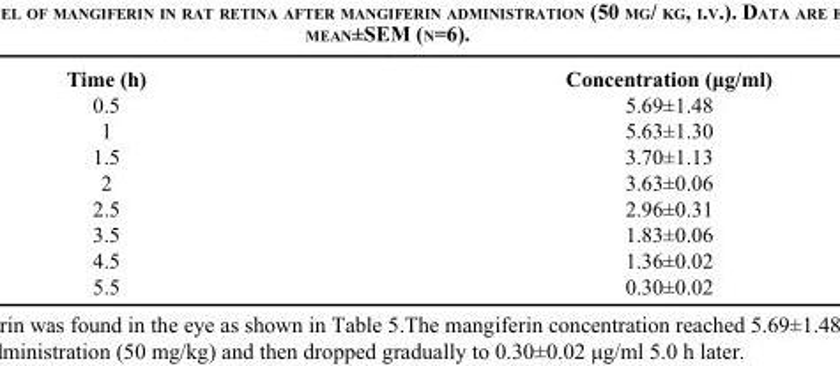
<table><thead><tr><td>Time (h)</td><td>Concentration (μg/ml)</td></tr></thead><tbody><tr><td>0.5</td><td>5.69±1.48</td></tr><tr><td>1</td><td>5.63±1.30</td></tr><tr><td>1.5</td><td>3.70±1.13</td></tr><tr><td>2</td><td>3.63±0.06</td></tr><tr><td>2.5</td><td>2.96±0.31</td></tr><tr><td>3.5</td><td>1.83±0.06</td></tr><tr><td>4.5</td><td>1.36±0.02</td></tr><tr><td>5.5</td><td>0.30±0.02</td></tr></tbody></table>